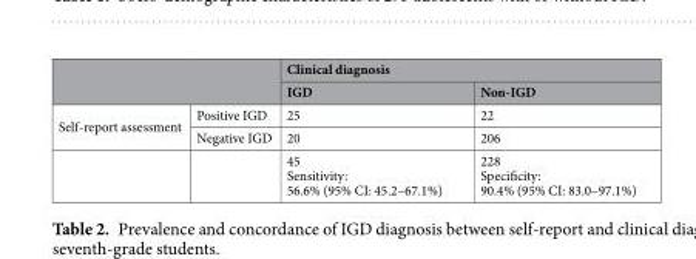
<table><thead><tr><td rowspan="2"></td><td rowspan="2"></td><td colspan="2">Clinical diagnosis</td></tr><tr><td>IGD</td><td>Non-IGD</td></tr></thead><tbody><tr><td rowspan="3">Self-report assessment</td><td>Positive IGD</td><td>25</td><td>22</td></tr><tr><td>Negative IGD</td><td>20</td><td>206</td></tr><tr><td></td><td>45 Sensitivity: 56.6% (95% CI: 45.2–67.1%)</td><td>228 Specificity: 90.4% (95% CI: 83.0–97.1%)</td></tr></tbody></table>